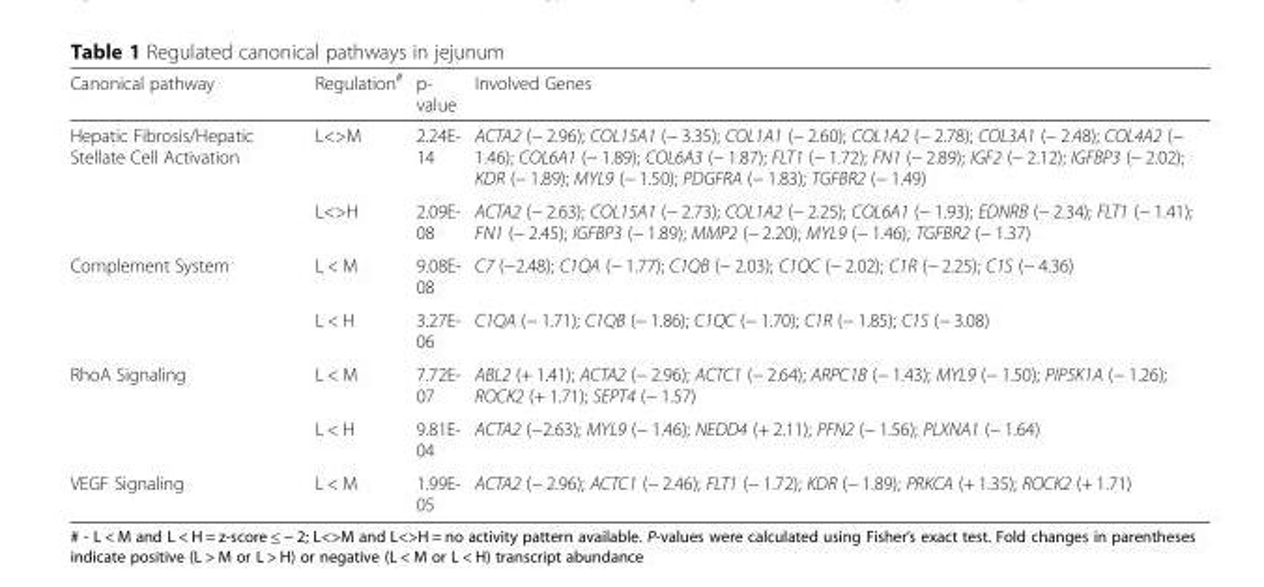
<table><thead><tr><td>Canonical pathway</td><td>Regulation<sup>#</sup></td><td>p- value</td><td>Involved Genes</td></tr></thead><tbody><tr><td rowspan="2">Hepatic Fibrosis/Hepatic Stellate Cell Activation</td><td>L&lt;&gt;M</td><td>2.24E- 14</td><td>ACTA2 (− 2.96); COL15A1 (− 3.35); COL1A1 (− 2.60); COL1A2 (− 2.78); COL3A1 (− 2.48); COL4A2 (− 1.46); COL6A1 (− 1.89); COL6A3 (− 1.87); FLT1 (− 1.72); FN1 (− 2.89); IGF2 (− 2.12); IGFBP3 (− 2.02); KDR (− 1.89); MYL9 (− 1.50); PDGFRA (− 1.83); TGFBR2 (− 1.49)</td></tr><tr><td>L&lt;&gt;H</td><td>2.09E- 08</td><td>ACTA2 (− 2.63); COL15A1 (− 2.73); COL1A2 (− 2.25); COL6A1 (− 1.93); EDNRB (− 2.34); FLT1 (− 1.41); FN1 (− 2.45); IGFBP3 (− 1.89); MMP2 (− 2.20); MYL9 (− 1.46); TGFBR2 (− 1.37)</td></tr><tr><td rowspan="2">Complement System</td><td>L &lt; M</td><td>9.08E- 08</td><td>C7 (−2.48); C1QA (− 1.77); C1QB (− 2.03); C1QC (− 2.02); C1R (− 2.25); C1S (− 4.36)</td></tr><tr><td>L &lt; H</td><td>3.27E- 06</td><td>C1QA (− 1.71); C1QB (− 1.86); C1QC (− 1.70); C1R (− 1.85); C1S (− 3.08)</td></tr><tr><td rowspan="2">RhoA Signaling</td><td>L &lt; M</td><td>7.72E- 07</td><td>ABL2 (+ 1.41); ACTA2 (− 2.96); ACTC1 (− 2.64); ARPC1B (− 1.43); MYL9 (− 1.50); PIP5K1A (− 1.26); ROCK2 (+ 1.71); SEPT4 (− 1.57)</td></tr><tr><td>L &lt; H</td><td>9.81E- 04</td><td>ACTA2 (−2.63); MYL9 (− 1.46); NEDD4 (+ 2.11); PFN2 (− 1.56); PLXNA1 (− 1.64)</td></tr><tr><td>VEGF Signaling</td><td>L &lt; M</td><td>1.99E- 05</td><td>ACTA2 (− 2.96); ACTC1 (− 2.46); FLT1 (− 1.72); KDR (− 1.89); PRKCA (+ 1.35); ROCK2 (+ 1.71)</td></tr></tbody></table>